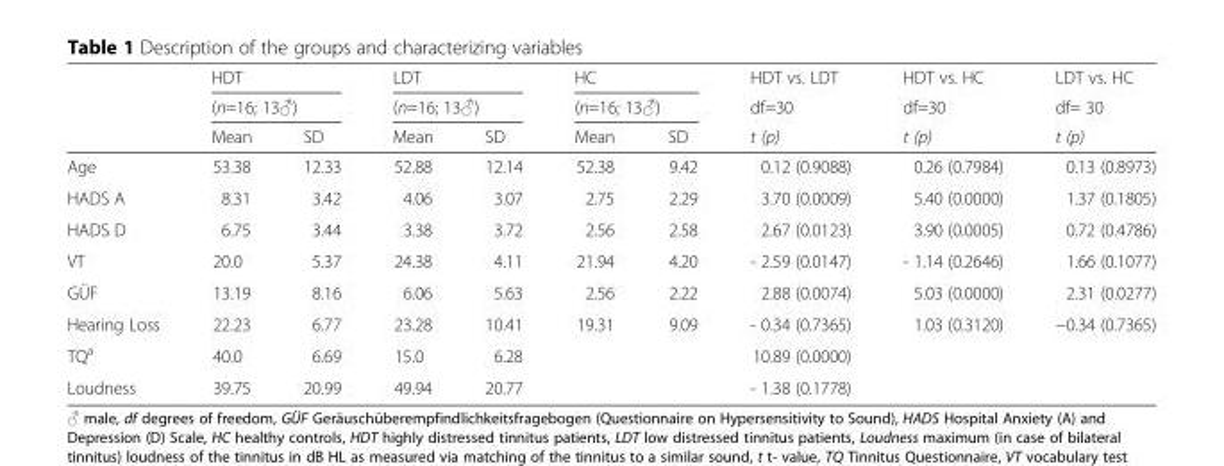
<table><thead><tr><td rowspan="3"></td><td rowspan="2" colspan="2">HDT (n=16; 13♂)</td><td rowspan="2" colspan="2">LDT (n=16; 13♂)</td><td rowspan="2" colspan="2">HC (n=16; 13♂)</td><td rowspan="3">HDT vs. LDT df=30 t (p)</td><td rowspan="3">HDT vs. HC df=30 t (p)</td><td rowspan="3">LDT vs. HC df= 30 t (p)</td></tr><tr></tr><tr><td>Mean</td><td>SD</td><td>Mean</td><td>SD</td><td>Mean</td><td>SD</td></tr></thead><tbody><tr><td>Age</td><td>53.38</td><td>12.33</td><td>52.88</td><td>12.14</td><td>52.38</td><td>9.42</td><td>0.12 (0.9088)</td><td>0.26 (0.7984)</td><td>0.13 (0.8973)</td></tr><tr><td>HADS A</td><td>8.31</td><td>3.42</td><td>4.06</td><td>3.07</td><td>2.75</td><td>2.29</td><td>3.70 (0.0009)</td><td>5.40 (0.0000)</td><td>1.37 (0.1805)</td></tr><tr><td>HADS D</td><td>6.75</td><td>3.44</td><td>3.38</td><td>3.72</td><td>2.56</td><td>2.58</td><td>2.67 (0.0123)</td><td>3.90 (0.0005)</td><td>0.72 (0.4786)</td></tr><tr><td>VT</td><td>20.0</td><td>5.37</td><td>24.38</td><td>4.11</td><td>21.94</td><td>4.20</td><td>- 2.59 (0.0147)</td><td>- 1.14 (0.2646)</td><td>1.66 (0.1077)</td></tr><tr><td>GÜF</td><td>13.19</td><td>8.16</td><td>6.06</td><td>5.63</td><td>2.56</td><td>2.22</td><td>2.88 (0.0074)</td><td>5.03 (0.0000)</td><td>2.31 (0.0277)</td></tr><tr><td>Hearing Loss</td><td>22.23</td><td>6.77</td><td>23.28</td><td>10.41</td><td>19.31</td><td>9.09</td><td>- 0.34 (0.7365)</td><td>1.03 (0.3120)</td><td>−0.34 (0.7365)</td></tr><tr><td>TQ<sup>a</sup></td><td>40.0</td><td>6.69</td><td>15.0</td><td>6.28</td><td></td><td></td><td>10.89 (0.0000)</td><td></td><td></td></tr><tr><td>Loudness</td><td>39.75</td><td>20.99</td><td>49.94</td><td>20.77</td><td></td><td></td><td>- 1.38 (0.1778)</td><td></td><td></td></tr></tbody></table>